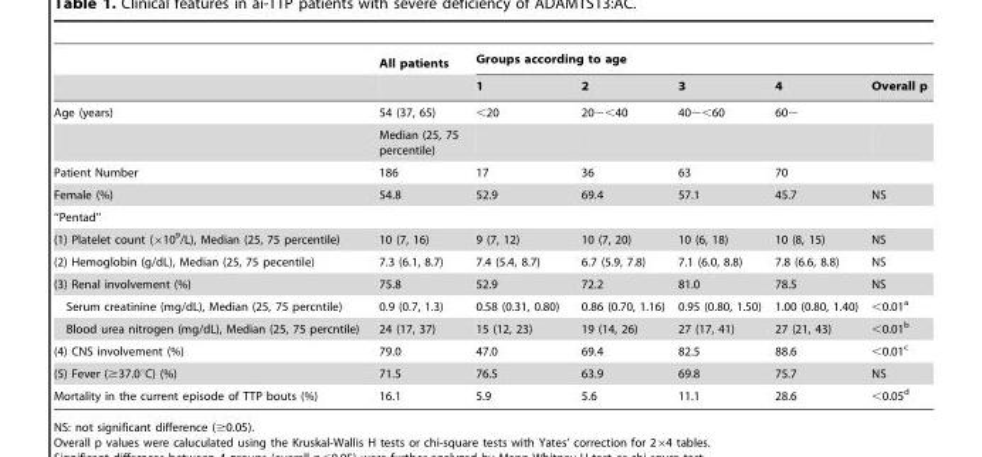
<table><thead><tr><td rowspan="2"></td><td rowspan="2">All patients</td><td colspan="5">Groups according to age</td></tr><tr><td>1</td><td>2</td><td>3</td><td>4</td><td>Overall p</td></tr></thead><tbody><tr><td rowspan="2">Age (years)</td><td>54 (37, 65)</td><td>&lt;20</td><td>20∼&lt;40</td><td>40∼&lt;60</td><td>60∼</td><td></td></tr><tr><td>Median (25, 75 percentile)</td><td></td><td></td><td></td><td></td><td></td></tr><tr><td>Patient Number</td><td>186</td><td>17</td><td>36</td><td>63</td><td>70</td><td></td></tr><tr><td>Female (%)</td><td>54.8</td><td>52.9</td><td>69.4</td><td>57.1</td><td>45.7</td><td>NS</td></tr><tr><td colspan="7">‘‘Pentad’’</td></tr><tr><td>(1) Platelet count (×10<sup>9</sup>/L), Median (25, 75 percentile)</td><td>10 (7, 16)</td><td>9 (7, 12)</td><td>10 (7, 20)</td><td>10 (6, 18)</td><td>10 (8, 15)</td><td>NS</td></tr><tr><td>(2) Hemoglobin (g/dL), Median (25, 75 pecentile)</td><td>7.3 (6.1, 8.7)</td><td>7.4 (5.4, 8.7)</td><td>6.7 (5.9, 7.8)</td><td>7.1 (6.0, 8.8)</td><td>7.8 (6.6, 8.8)</td><td>NS</td></tr><tr><td>(3) Renal involvement (%)</td><td>75.8</td><td>52.9</td><td>72.2</td><td>81.0</td><td>78.5</td><td>NS</td></tr><tr><td>Serum creatinine (mg/dL), Median (25, 75 percntile)</td><td>0.9 (0.7, 1.3)</td><td>0.58 (0.31, 0.80)</td><td>0.86 (0.70, 1.16)</td><td>0.95 (0.80, 1.50)</td><td>1.00 (0.80, 1.40)</td><td>&lt;0.01<sup>a</sup></td></tr><tr><td>Blood urea nitrogen (mg/dL), Median (25, 75 percntile)</td><td>24 (17, 37)</td><td>15 (12, 23)</td><td>19 (14, 26)</td><td>27 (17, 41)</td><td>27 (21, 43)</td><td>&lt;0.01<sup>b</sup></td></tr><tr><td>(4) CNS involvement (%)</td><td>79.0</td><td>47.0</td><td>69.4</td><td>82.5</td><td>88.6</td><td>&lt;0.01<sup>c</sup></td></tr><tr><td>(5) Fever (≥37.0°C) (%)</td><td>71.5</td><td>76.5</td><td>63.9</td><td>69.8</td><td>75.7</td><td>NS</td></tr><tr><td>Mortality in the current episode of TTP bouts (%)</td><td>16.1</td><td>5.9</td><td>5.6</td><td>11.1</td><td>28.6</td><td>&lt;0.05<sup>d</sup></td></tr></tbody></table>